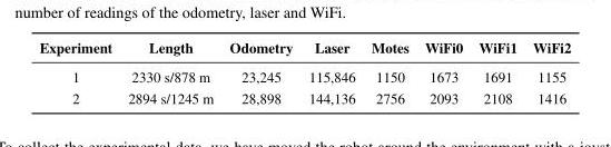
<table><thead><tr><td>Experiment</td><td>Length</td><td>Odometry</td><td>Laser</td><td>Motes</td><td>WiFi0</td><td>WiFi1</td><td>WiFi2</td></tr></thead><tbody><tr><td>1</td><td>2330 s/878 m</td><td>23,245</td><td>115,846</td><td>1150</td><td>1673</td><td>1691</td><td>1155</td></tr><tr><td>2</td><td>2894 s/1245 m</td><td>28,898</td><td>144,136</td><td>2756</td><td>2093</td><td>2108</td><td>1416</td></tr></tbody></table>